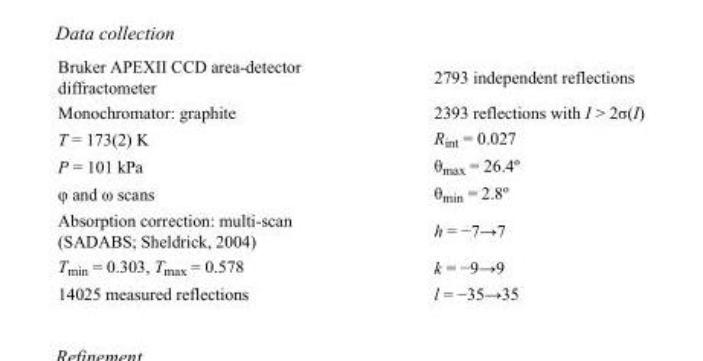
<table><tbody><tr><td>Bruker APEXII CCD area-detector diffractometer</td><td>2793 independent reflections</td></tr><tr><td>Monochromator: graphite</td><td>2393 reflections with I &gt; 2σ(I)</td></tr><tr><td>T = 173(2) K</td><td>R<sub>int</sub> = 0.027</td></tr><tr><td>P = 101 kPa</td><td>θ<sub>max</sub> = 26.4º</td></tr><tr><td>φ and ω scans</td><td>θ<sub>min</sub> = 2.8º</td></tr><tr><td>Absorption correction: multi-scan (SADABS; Sheldrick, 2004)</td><td>h = −7→7</td></tr><tr><td>T<sub>min</sub> = 0.303, T<sub>max</sub> = 0.578</td><td>k = −9→9</td></tr><tr><td>14025 measured reflections</td><td>l = −35→35</td></tr></tbody></table>